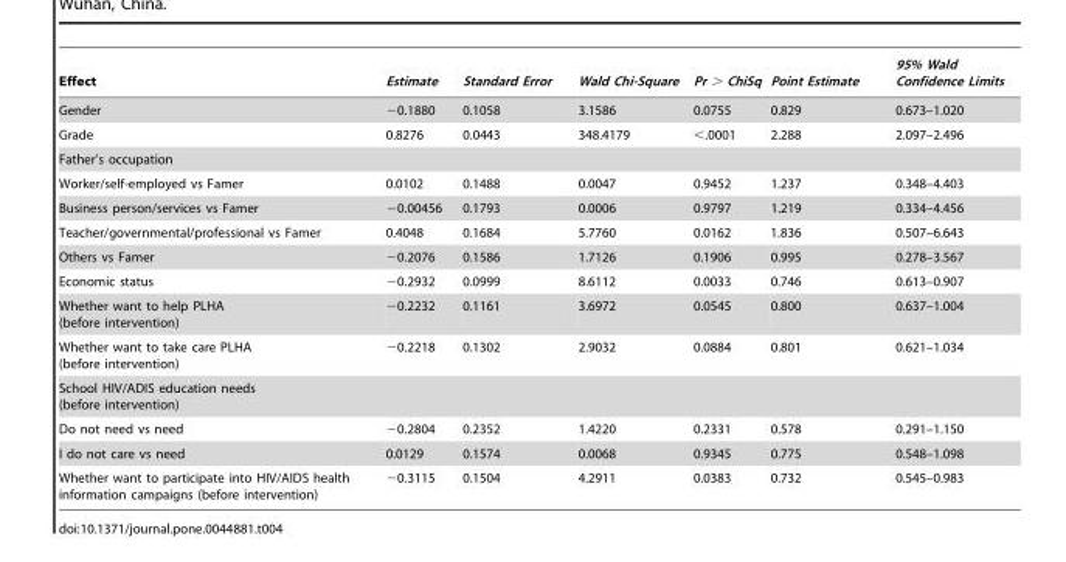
<table><thead><tr><td>Effect</td><td>Estimate</td><td>Standard Error</td><td>Wald Chi-Square</td><td>Pr &gt; ChiSq</td><td>Point Estimate</td><td>95% Wald Confidence Limits</td></tr></thead><tbody><tr><td>Gender</td><td>−0.1880</td><td>0.1058</td><td>3.1586</td><td>0.0755</td><td>0.829</td><td>0.673–1.020</td></tr><tr><td>Grade</td><td>0.8276</td><td>0.0443</td><td>348.4179</td><td>&lt;.0001</td><td>2.288</td><td>2.097–2.496</td></tr><tr><td colspan="7">Father’s occupation</td></tr><tr><td>Worker/self-employed vs Famer</td><td>0.0102</td><td>0.1488</td><td>0.0047</td><td>0.9452</td><td>1.237</td><td>0.348–4.403</td></tr><tr><td>Business person/services vs Famer</td><td>−0.00456</td><td>0.1793</td><td>0.0006</td><td>0.9797</td><td>1.219</td><td>0.334–4.456</td></tr><tr><td>Teacher/governmental/professional vs Famer</td><td>0.4048</td><td>0.1684</td><td>5.7760</td><td>0.0162</td><td>1.836</td><td>0.507–6.643</td></tr><tr><td>Others vs Famer</td><td>−0.2076</td><td>0.1586</td><td>1.7126</td><td>0.1906</td><td>0.995</td><td>0.278–3.567</td></tr><tr><td>Economic status</td><td>−0.2932</td><td>0.0999</td><td>8.6112</td><td>0.0033</td><td>0.746</td><td>0.613–0.907</td></tr><tr><td>Whether want to help PLHA (before intervention)</td><td>−0.2232</td><td>0.1161</td><td>3.6972</td><td>0.0545</td><td>0.800</td><td>0.637–1.004</td></tr><tr><td>Whether want to take care PLHA (before intervention)</td><td>−0.2218</td><td>0.1302</td><td>2.9032</td><td>0.0884</td><td>0.801</td><td>0.621–1.034</td></tr><tr><td colspan="7">School HIV/ADIS education needs (before intervention)</td></tr><tr><td>Do not need vs need</td><td>−0.2804</td><td>0.2352</td><td>1.4220</td><td>0.2331</td><td>0.578</td><td>0.291–1.150</td></tr><tr><td>I do not care vs need</td><td>0.0129</td><td>0.1574</td><td>0.0068</td><td>0.9345</td><td>0.775</td><td>0.548–1.098</td></tr><tr><td>Whether want to participate into HIV/AIDS health information campaigns (before intervention)</td><td>−0.3115</td><td>0.1504</td><td>4.2911</td><td>0.0383</td><td>0.732</td><td>0.545–0.983</td></tr></tbody></table>